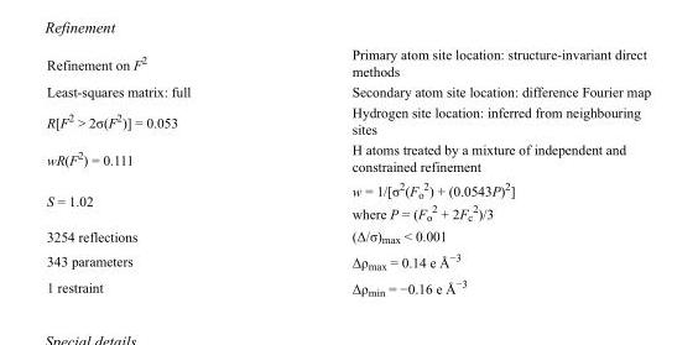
<table><tbody><tr><td>Refinement on F<sup>2</sup></td><td>Primary atom site location: structure-invariant direct methods</td></tr><tr><td>Least-squares matrix: full</td><td>Secondary atom site location: difference Fourier map</td></tr><tr><td>R[F<sup>2</sup> &gt; 2σ(F<sup>2</sup>)] = 0.053</td><td>Hydrogen site location: inferred from neighbouring sites</td></tr><tr><td>wR(F<sup>2</sup>) = 0.111</td><td>H atoms treated by a mixture of independent and constrained refinement</td></tr><tr><td>S = 1.02</td><td>w = 1/[σ<sup>2</sup>(F<sub>o</sub> <sup>2</sup>) + (0.0543P)<sup>2</sup>] where P = (F<sub>o</sub> <sup>2</sup> + 2F<sub>c</sub> <sup>2</sup>)/3</td></tr><tr><td>3254 reflections</td><td>(Δ/σ)<sub>max</sub> &lt; 0.001</td></tr><tr><td>343 parameters</td><td>Δρ<sub>max</sub> = 0.14 e Å<sup>−3</sup></td></tr><tr><td>1 restraint</td><td>Δρ<sub>min</sub> = −0.16 e Å<sup>−3</sup></td></tr></tbody></table>